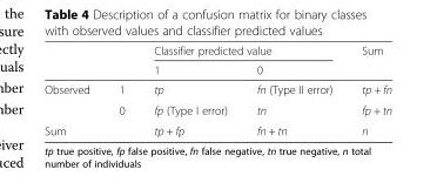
<table><thead><tr><td rowspan="2"></td><td rowspan="2"></td><td colspan="2">Classifier predicted value</td><td rowspan="2">Sum</td></tr><tr><td>1</td><td>0</td></tr></thead><tbody><tr><td rowspan="2">Observed</td><td>1</td><td>tp</td><td>fn (Type II error)</td><td>tp + fn</td></tr><tr><td>0</td><td>fp (Type I error)</td><td>tn</td><td>fp + tn</td></tr><tr><td colspan="2">Sum</td><td>tp + fp</td><td>fn + tn</td><td>n</td></tr></tbody></table>